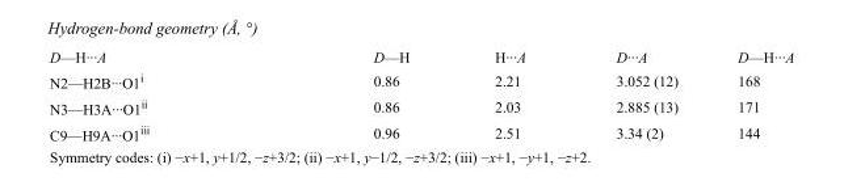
<table><tbody><tr><td>D—H···A</td><td>D—H</td><td>H···A</td><td>D···A</td><td>D—H···A</td></tr><tr><td>N2—H2B···O1<sup>i</sup></td><td>0.86</td><td>2.21</td><td>3.052 (12)</td><td>168</td></tr><tr><td>N3—H3A···O1<sup>ii</sup></td><td>0.86</td><td>2.03</td><td>2.885 (13)</td><td>171</td></tr><tr><td>C9—H9A···O1<sup>iii</sup></td><td>0.96</td><td>2.51</td><td>3.34 (2)</td><td>144</td></tr></tbody></table>